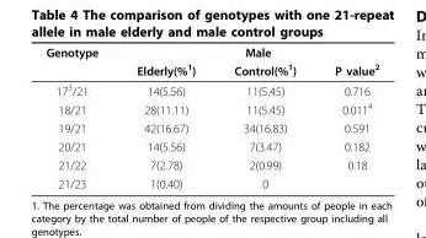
<table><thead><tr><td rowspan="2">Genotype</td><td colspan="3">Male</td></tr><tr><td>Elderly(%<sup>1</sup>)</td><td>Control(%<sup>1</sup>)</td><td>P value<sup>2</sup></td></tr></thead><tbody><tr><td>17<sup>3</sup>/21</td><td>14(5.56)</td><td>11(5.45)</td><td>0.716</td></tr><tr><td>18/21</td><td>28(11.11)</td><td>11(5.45)</td><td>0.011<sup>4</sup></td></tr><tr><td>19/21</td><td>42(16.67)</td><td>34(16.83)</td><td>0.591</td></tr><tr><td>20/21</td><td>14(5.56)</td><td>7(3.47)</td><td>0.182</td></tr><tr><td>21/22</td><td>7(2.78)</td><td>2(0.99)</td><td>0.18</td></tr><tr><td>21/23</td><td>1(0.40)</td><td>0</td><td></td></tr></tbody></table>